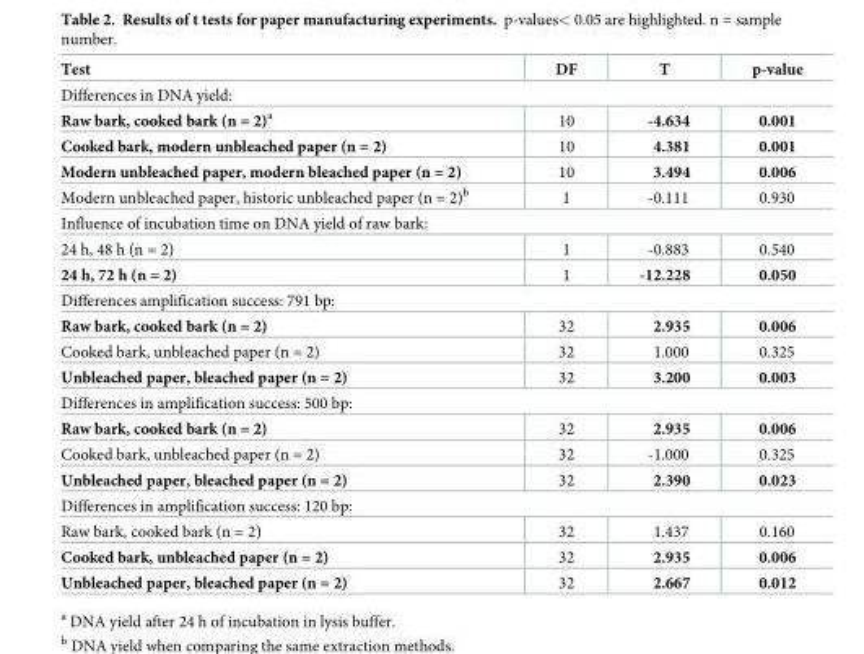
<table><thead><tr><td>Test</td><td>DF</td><td>T</td><td>p-value</td></tr></thead><tbody><tr><td colspan="4">Differences in DNA yield:</td></tr><tr><td>Raw bark, cooked bark (n = 2)<sup>a</sup></td><td>10</td><td>-4.634</td><td>0.001</td></tr><tr><td>Cooked bark, modern unbleached paper (n = 2)</td><td>10</td><td>4.381</td><td>0.001</td></tr><tr><td>Modern unbleached paper, modern bleached paper (n = 2)</td><td>10</td><td>3.494</td><td>0.006</td></tr><tr><td>Modern unbleached paper, historic unbleached paper (n = 2)<sup>b</sup></td><td>1</td><td>-0.111</td><td>0.930</td></tr><tr><td colspan="4">Influence of incubation time on DNA yield of raw bark:</td></tr><tr><td>24 h, 48 h (n = 2)</td><td>1</td><td>-0.883</td><td>0.540</td></tr><tr><td>24 h, 72 h (n = 2)</td><td>1</td><td>-12.228</td><td>0.050</td></tr><tr><td colspan="4">Differences amplification success: 791 bp:</td></tr><tr><td>Raw bark, cooked bark (n = 2)</td><td>32</td><td>2.935</td><td>0.006</td></tr><tr><td>Cooked bark, unbleached paper (n = 2)</td><td>32</td><td>1.000</td><td>0.325</td></tr><tr><td>Unbleached paper, bleached paper (n = 2)</td><td>32</td><td>3.200</td><td>0.003</td></tr><tr><td colspan="4">Differences in amplification success: 500 bp:</td></tr><tr><td>Raw bark, cooked bark (n = 2)</td><td>32</td><td>2.935</td><td>0.006</td></tr><tr><td>Cooked bark, unbleached paper (n = 2)</td><td>32</td><td>-1.000</td><td>0.325</td></tr><tr><td>Unbleached paper, bleached paper (n = 2)</td><td>32</td><td>2.390</td><td>0.023</td></tr><tr><td colspan="4">Differences in amplification success: 120 bp:</td></tr><tr><td>Raw bark, cooked bark (n = 2)</td><td>32</td><td>1.437</td><td>0.160</td></tr><tr><td>Cooked bark, unbleached paper (n = 2)</td><td>32</td><td>2.935</td><td>0.006</td></tr><tr><td>Unbleached paper, bleached paper (n = 2)</td><td>32</td><td>2.667</td><td>0.012</td></tr></tbody></table>